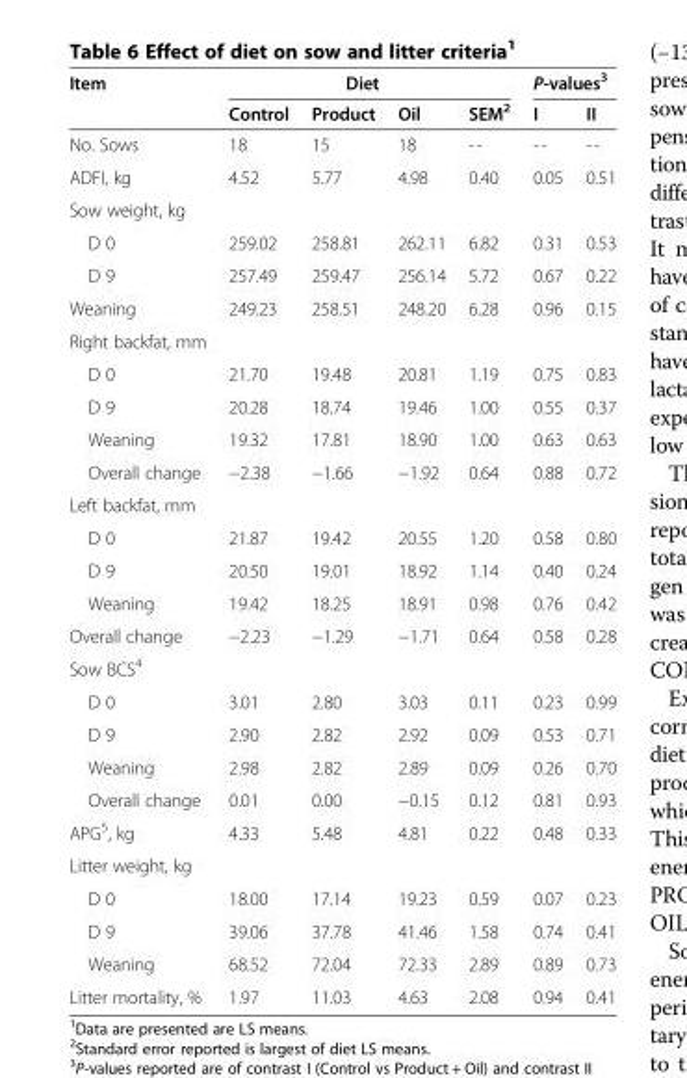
<table><thead><tr><td rowspan="2">Item</td><td colspan="4">Diet</td><td colspan="2">P-values<sup>3</sup></td></tr><tr><td>Control</td><td>Product</td><td>Oil</td><td>SEM<sup>2</sup></td><td>I</td><td>II</td></tr></thead><tbody><tr><td>No. Sows</td><td>18</td><td>15</td><td>18</td><td>--</td><td>--</td><td>--</td></tr><tr><td>ADFI, kg</td><td>4.52</td><td>5.77</td><td>4.98</td><td>0.40</td><td>0.05</td><td>0.51</td></tr><tr><td colspan="7">Sow weight, kg</td></tr><tr><td>D 0</td><td>259.02</td><td>258.81</td><td>262.11</td><td>6.82</td><td>0.31</td><td>0.53</td></tr><tr><td>D 9</td><td>257.49</td><td>259.47</td><td>256.14</td><td>5.72</td><td>0.67</td><td>0.22</td></tr><tr><td>Weaning</td><td>249.23</td><td>258.51</td><td>248.20</td><td>6.28</td><td>0.96</td><td>0.15</td></tr><tr><td colspan="7">Right backfat, mm</td></tr><tr><td>D 0</td><td>21.70</td><td>19.48</td><td>20.81</td><td>1.19</td><td>0.75</td><td>0.83</td></tr><tr><td>D 9</td><td>20.28</td><td>18.74</td><td>19.46</td><td>1.00</td><td>0.55</td><td>0.37</td></tr><tr><td>Weaning</td><td>19.32</td><td>17.81</td><td>18.90</td><td>1.00</td><td>0.63</td><td>0.63</td></tr><tr><td>Overall change</td><td>−2.38</td><td>−1.66</td><td>−1.92</td><td>0.64</td><td>0.88</td><td>0.72</td></tr><tr><td colspan="7">Left backfat, mm</td></tr><tr><td>D 0</td><td>21.87</td><td>19.42</td><td>20.55</td><td>1.20</td><td>0.58</td><td>0.80</td></tr><tr><td>D 9</td><td>20.50</td><td>19.01</td><td>18.92</td><td>1.14</td><td>0.40</td><td>0.24</td></tr><tr><td>Weaning</td><td>19.42</td><td>18.25</td><td>18.91</td><td>0.98</td><td>0.76</td><td>0.42</td></tr><tr><td>Overall change</td><td>−2.23</td><td>−1.29</td><td>−1.71</td><td>0.64</td><td>0.58</td><td>0.28</td></tr><tr><td colspan="7">Sow BCS<sup>4</sup></td></tr><tr><td>D 0</td><td>3.01</td><td>2.80</td><td>3.03</td><td>0.11</td><td>0.23</td><td>0.99</td></tr><tr><td>D 9</td><td>2.90</td><td>2.82</td><td>2.92</td><td>0.09</td><td>0.53</td><td>0.71</td></tr><tr><td>Weaning</td><td>2.98</td><td>2.82</td><td>2.89</td><td>0.09</td><td>0.26</td><td>0.70</td></tr><tr><td>Overall change</td><td>0.01</td><td>0.00</td><td>−0.15</td><td>0.12</td><td>0.81</td><td>0.93</td></tr><tr><td>APG<sup>5</sup>, kg</td><td>4.33</td><td>5.48</td><td>4.81</td><td>0.22</td><td>0.48</td><td>0.33</td></tr><tr><td colspan="7">Litter weight, kg</td></tr><tr><td>D 0</td><td>18.00</td><td>17.14</td><td>19.23</td><td>0.59</td><td>0.07</td><td>0.23</td></tr><tr><td>D 9</td><td>39.06</td><td>37.78</td><td>41.46</td><td>1.58</td><td>0.74</td><td>0.41</td></tr><tr><td>Weaning</td><td>68.52</td><td>72.04</td><td>72.33</td><td>2.89</td><td>0.89</td><td>0.73</td></tr><tr><td>Litter mortality, %</td><td>1.97</td><td>11.03</td><td>4.63</td><td>2.08</td><td>0.94</td><td>0.41</td></tr></tbody></table>